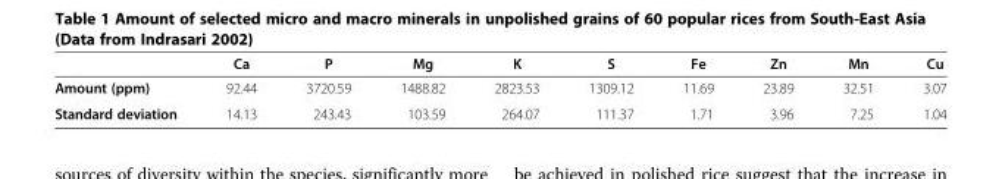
<table><thead><tr><td></td><td>Ca</td><td>P</td><td>Mg</td><td>K</td><td>S</td><td>Fe</td><td>Zn</td><td>Mn</td><td>Cu</td></tr></thead><tbody><tr><td>Amount (ppm)</td><td>92.44</td><td>3720.59</td><td>1488.82</td><td>2823.53</td><td>1309.12</td><td>11.69</td><td>23.89</td><td>32.51</td><td>3.07</td></tr><tr><td>Standard deviation</td><td>14.13</td><td>243.43</td><td>103.59</td><td>264.07</td><td>111.37</td><td>1.71</td><td>3.96</td><td>7.25</td><td>1.04</td></tr></tbody></table>